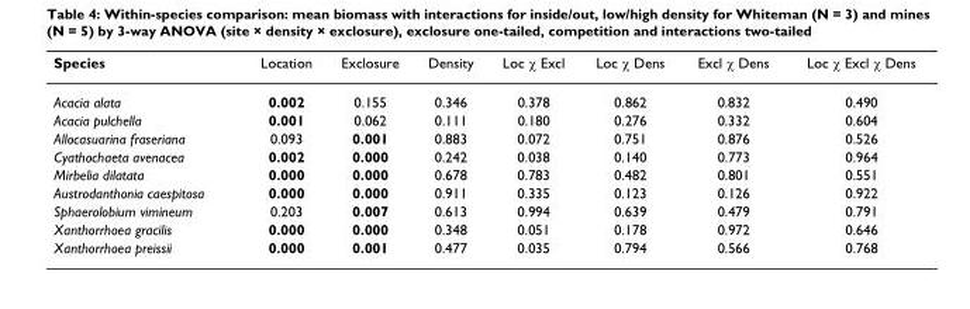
<table><thead><tr><td>Species</td><td>Location</td><td>Exclosure</td><td>Density</td><td>Loc χ Excl</td><td>Loc χ Dens</td><td>Excl χ Dens</td><td>Loc χ Excl χ Dens</td></tr></thead><tbody><tr><td>Acacia alata</td><td>0.002</td><td>0.155</td><td>0.346</td><td>0.378</td><td>0.862</td><td>0.832</td><td>0.490</td></tr><tr><td>Acacia pulchella</td><td>0.001</td><td>0.062</td><td>0.111</td><td>0.180</td><td>0.276</td><td>0.332</td><td>0.604</td></tr><tr><td>Allocasuarina fraseriana</td><td>0.093</td><td>0.001</td><td>0.883</td><td>0.072</td><td>0.751</td><td>0.876</td><td>0.526</td></tr><tr><td>Cyathochaeta avenacea</td><td>0.002</td><td>0.000</td><td>0.242</td><td>0.038</td><td>0.140</td><td>0.773</td><td>0.964</td></tr><tr><td>Mirbelia dilatata</td><td>0.000</td><td>0.000</td><td>0.678</td><td>0.783</td><td>0.482</td><td>0.801</td><td>0.551</td></tr><tr><td>Austrodanthonia caespitosa</td><td>0.000</td><td>0.000</td><td>0.911</td><td>0.335</td><td>0.123</td><td>0.126</td><td>0.922</td></tr><tr><td>Sphaerolobium vimineum</td><td>0.203</td><td>0.007</td><td>0.613</td><td>0.994</td><td>0.639</td><td>0.479</td><td>0.791</td></tr><tr><td>Xanthorrhoea gracilis</td><td>0.000</td><td>0.000</td><td>0.348</td><td>0.051</td><td>0.178</td><td>0.972</td><td>0.646</td></tr><tr><td>Xanthorrhoea preissii</td><td>0.000</td><td>0.001</td><td>0.477</td><td>0.035</td><td>0.794</td><td>0.566</td><td>0.768</td></tr></tbody></table>